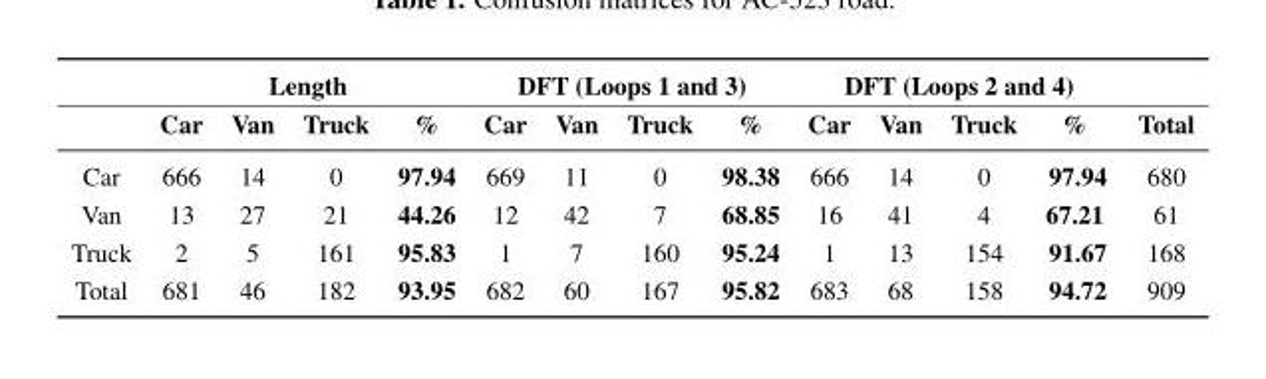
<table><thead><tr><td rowspan="2"></td><td colspan="4">Length</td><td colspan="4">DFT (Loops 1 and 3)</td><td colspan="4">DFT (Loops 2 and 4)</td><td rowspan="2">Total</td></tr><tr><td>Car</td><td>Van</td><td>Truck</td><td>%</td><td>Car</td><td>Van</td><td>Truck</td><td>%</td><td>Car</td><td>Van</td><td>Truck</td><td>%</td></tr></thead><tbody><tr><td>Car</td><td>666</td><td>14</td><td>0</td><td>97.94</td><td>669</td><td>11</td><td>0</td><td>98.38</td><td>666</td><td>14</td><td>0</td><td>97.94</td><td>680</td></tr><tr><td>Van</td><td>13</td><td>27</td><td>21</td><td>44.26</td><td>12</td><td>42</td><td>7</td><td>68.85</td><td>16</td><td>41</td><td>4</td><td>67.21</td><td>61</td></tr><tr><td>Truck</td><td>2</td><td>5</td><td>161</td><td>95.83</td><td>1</td><td>7</td><td>160</td><td>95.24</td><td>1</td><td>13</td><td>154</td><td>91.67</td><td>168</td></tr><tr><td>Total</td><td>681</td><td>46</td><td>182</td><td>93.95</td><td>682</td><td>60</td><td>167</td><td>95.82</td><td>683</td><td>68</td><td>158</td><td>94.72</td><td>909</td></tr></tbody></table>